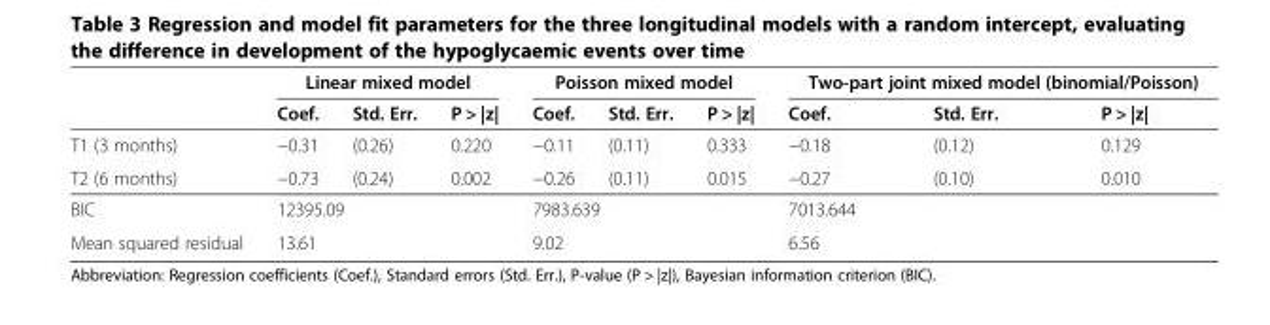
<table><thead><tr><td rowspan="2"></td><td colspan="3">Linear mixed model</td><td colspan="3">Poisson mixed model</td><td colspan="3">Two-part joint mixed model (binomial/Poisson)</td></tr><tr><td>Coef.</td><td>Std. Err.</td><td>P &gt; |z|</td><td>Coef.</td><td>Std. Err.</td><td>P &gt; |z|</td><td>Coef.</td><td>Std. Err.</td><td>P &gt; |z|</td></tr></thead><tbody><tr><td>T1 (3 months)</td><td>−0.31</td><td>(0.26)</td><td>0.220</td><td>−0.11</td><td>(0.11)</td><td>0.333</td><td>−0.18</td><td>(0.12)</td><td>0.129</td></tr><tr><td>T2 (6 months)</td><td>−0.73</td><td>(0.24)</td><td>0.002</td><td>−0.26</td><td>(0.11)</td><td>0.015</td><td>−0.27</td><td>(0.10)</td><td>0.010</td></tr><tr><td>BIC</td><td colspan="3">12395.09</td><td colspan="3">7983.639</td><td colspan="3">7013.644</td></tr><tr><td>Mean squared residual</td><td colspan="3">13.61</td><td colspan="3">9.02</td><td colspan="3">6.56</td></tr></tbody></table>